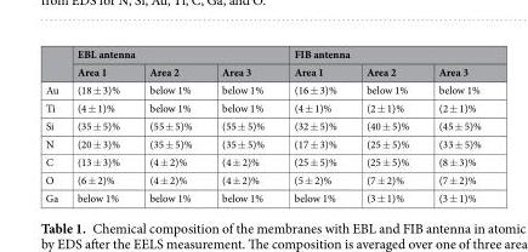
<table><thead><tr><td rowspan="2"></td><td colspan="3">EBL antenna</td><td colspan="3">FIB antenna</td></tr><tr><td>Area 1</td><td>Area 2</td><td>Area 3</td><td>Area 1</td><td>Area 2</td><td>Area 3</td></tr></thead><tbody><tr><td>Au</td><td>(18 ± 3)%</td><td>below 1%</td><td>below 1%</td><td>(16 ± 3)%</td><td>below 1%</td><td>below 1%</td></tr><tr><td>Ti</td><td>(4 ± 1)%</td><td>below 1%</td><td>below 1%</td><td>(4 ± 1)%</td><td>(2 ± 1)%</td><td>(2 ± 1)%</td></tr><tr><td>Si</td><td>(35 ± 5)%</td><td>(55 ± 5)%</td><td>(55 ± 5)%</td><td>(32 ± 5)%</td><td>(40 ± 5)%</td><td>(45 ± 5)%</td></tr><tr><td>N</td><td>(20 ± 3)%</td><td>(35 ± 5)%</td><td>(35 ± 5)%</td><td>(17 ± 3)%</td><td>(25 ± 5)%</td><td>(33 ± 5)%</td></tr><tr><td>C</td><td>(13 ± 3)%</td><td>(4 ± 2)%</td><td>(4 ± 2)%</td><td>(25 ± 5)%</td><td>(25 ± 5)%</td><td>(8 ± 3)%</td></tr><tr><td>O</td><td>(6 ± 2)%</td><td>(4 ± 2)%</td><td>(4 ± 2)%</td><td>(5 ± 2)%</td><td>(7 ± 2)%</td><td>(7 ± 2)%</td></tr><tr><td>Ga</td><td>below 1%</td><td>below 1%</td><td>below 1%</td><td>below 1%</td><td>(3 ± 1)%</td><td>(3 ± 1)%</td></tr></tbody></table>